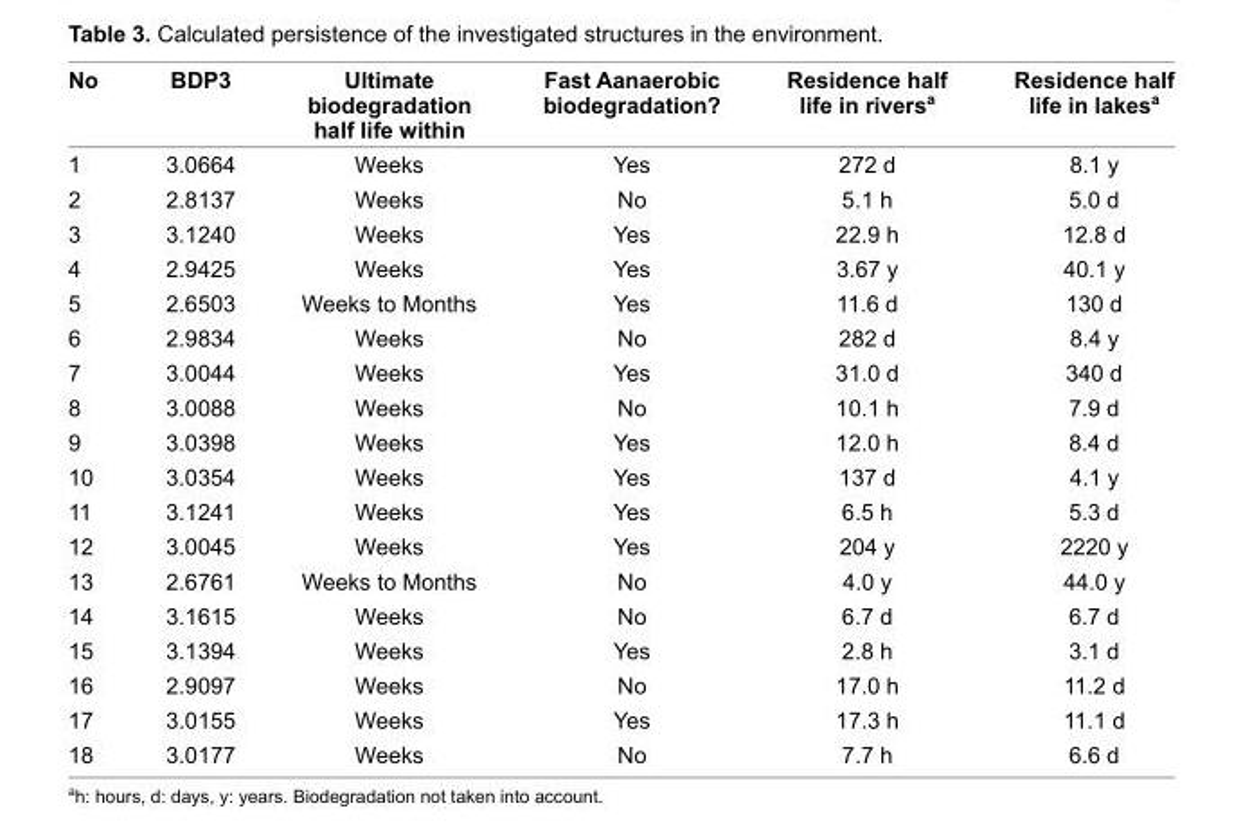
<table><thead><tr><td>No</td><td>BDP3</td><td>Ultimate biodegradation half life within</td><td>Fast Aanaerobic biodegradation?</td><td>Residence half life in rivers<sup>a</sup></td><td>Residence half life in lakes<sup>a</sup></td></tr></thead><tbody><tr><td>1</td><td>3.0664</td><td>Weeks</td><td>Yes</td><td>272 d</td><td>8.1 y</td></tr><tr><td>2</td><td>2.8137</td><td>Weeks</td><td>No</td><td>5.1 h</td><td>5.0 d</td></tr><tr><td>3</td><td>3.1240</td><td>Weeks</td><td>Yes</td><td>22.9 h</td><td>12.8 d</td></tr><tr><td>4</td><td>2.9425</td><td>Weeks</td><td>Yes</td><td>3.67 y</td><td>40.1 y</td></tr><tr><td>5</td><td>2.6503</td><td>Weeks to Months</td><td>Yes</td><td>11.6 d</td><td>130 d</td></tr><tr><td>6</td><td>2.9834</td><td>Weeks</td><td>No</td><td>282 d</td><td>8.4 y</td></tr><tr><td>7</td><td>3.0044</td><td>Weeks</td><td>Yes</td><td>31.0 d</td><td>340 d</td></tr><tr><td>8</td><td>3.0088</td><td>Weeks</td><td>No</td><td>10.1 h</td><td>7.9 d</td></tr><tr><td>9</td><td>3.0398</td><td>Weeks</td><td>Yes</td><td>12.0 h</td><td>8.4 d</td></tr><tr><td>10</td><td>3.0354</td><td>Weeks</td><td>Yes</td><td>137 d</td><td>4.1 y</td></tr><tr><td>11</td><td>3.1241</td><td>Weeks</td><td>Yes</td><td>6.5 h</td><td>5.3 d</td></tr><tr><td>12</td><td>3.0045</td><td>Weeks</td><td>Yes</td><td>204 y</td><td>2220 y</td></tr><tr><td>13</td><td>2.6761</td><td>Weeks to Months</td><td>No</td><td>4.0 y</td><td>44.0 y</td></tr><tr><td>14</td><td>3.1615</td><td>Weeks</td><td>No</td><td>6.7 d</td><td>6.7 d</td></tr><tr><td>15</td><td>3.1394</td><td>Weeks</td><td>Yes</td><td>2.8 h</td><td>3.1 d</td></tr><tr><td>16</td><td>2.9097</td><td>Weeks</td><td>No</td><td>17.0 h</td><td>11.2 d</td></tr><tr><td>17</td><td>3.0155</td><td>Weeks</td><td>Yes</td><td>17.3 h</td><td>11.1 d</td></tr><tr><td>18</td><td>3.0177</td><td>Weeks</td><td>No</td><td>7.7 h</td><td>6.6 d</td></tr></tbody></table>